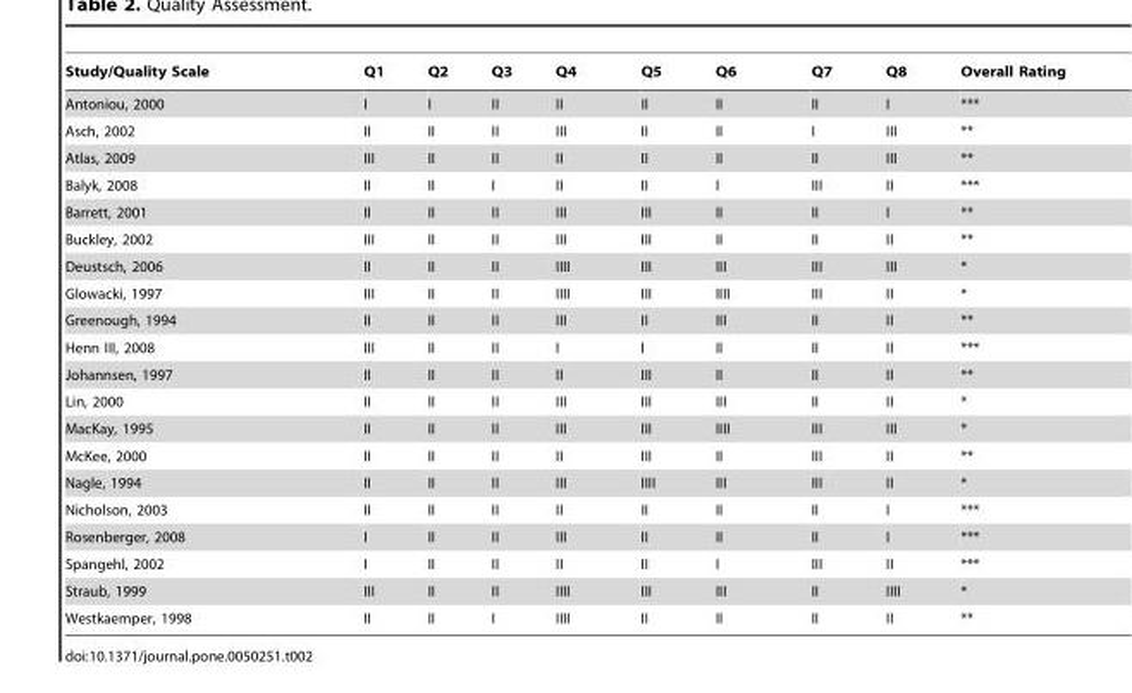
<table><thead><tr><td>Study/Quality Scale</td><td>Q1</td><td>Q2</td><td>Q3</td><td>Q4</td><td>Q5</td><td>Q6</td><td>Q7</td><td>Q8</td><td>Overall Rating</td></tr></thead><tbody><tr><td>Antoniou, 2000</td><td>I</td><td>I</td><td>II</td><td>II</td><td>II</td><td>II</td><td>II</td><td>I</td><td>***</td></tr><tr><td>Asch, 2002</td><td>II</td><td>II</td><td>II</td><td>III</td><td>II</td><td>II</td><td>I</td><td>III</td><td>**</td></tr><tr><td>Atlas, 2009</td><td>III</td><td>II</td><td>II</td><td>II</td><td>II</td><td>II</td><td>II</td><td>III</td><td>**</td></tr><tr><td>Balyk, 2008</td><td>II</td><td>II</td><td>I</td><td>II</td><td>II</td><td>I</td><td>III</td><td>II</td><td>***</td></tr><tr><td>Barrett, 2001</td><td>II</td><td>II</td><td>II</td><td>III</td><td>III</td><td>II</td><td>II</td><td>I</td><td>**</td></tr><tr><td>Buckley, 2002</td><td>III</td><td>II</td><td>II</td><td>III</td><td>III</td><td>II</td><td>II</td><td>II</td><td>**</td></tr><tr><td>Deustsch, 2006</td><td>II</td><td>II</td><td>II</td><td>IIII</td><td>III</td><td>III</td><td>III</td><td>III</td><td>*</td></tr><tr><td>Glowacki, 1997</td><td>III</td><td>II</td><td>II</td><td>IIII</td><td>III</td><td>IIII</td><td>III</td><td>II</td><td>*</td></tr><tr><td>Greenough, 1994</td><td>II</td><td>II</td><td>II</td><td>III</td><td>II</td><td>III</td><td>II</td><td>II</td><td>**</td></tr><tr><td>Henn III, 2008</td><td>III</td><td>II</td><td>II</td><td>I</td><td>I</td><td>II</td><td>II</td><td>II</td><td>***</td></tr><tr><td>Johannsen, 1997</td><td>II</td><td>II</td><td>II</td><td>II</td><td>III</td><td>II</td><td>II</td><td>II</td><td>**</td></tr><tr><td>Lin, 2000</td><td>II</td><td>II</td><td>II</td><td>III</td><td>III</td><td>III</td><td>II</td><td>II</td><td>*</td></tr><tr><td>MacKay, 1995</td><td>II</td><td>II</td><td>II</td><td>III</td><td>III</td><td>IIII</td><td>III</td><td>III</td><td>*</td></tr><tr><td>McKee, 2000</td><td>II</td><td>II</td><td>II</td><td>II</td><td>III</td><td>II</td><td>III</td><td>II</td><td>**</td></tr><tr><td>Nagle, 1994</td><td>II</td><td>II</td><td>II</td><td>III</td><td>IIII</td><td>III</td><td>III</td><td>II</td><td>*</td></tr><tr><td>Nicholson, 2003</td><td>II</td><td>II</td><td>II</td><td>II</td><td>II</td><td>II</td><td>II</td><td>I</td><td>***</td></tr><tr><td>Rosenberger, 2008</td><td>I</td><td>II</td><td>II</td><td>III</td><td>II</td><td>II</td><td>II</td><td>I</td><td>***</td></tr><tr><td>Spangehl, 2002</td><td>I</td><td>II</td><td>II</td><td>II</td><td>II</td><td>I</td><td>III</td><td>II</td><td>***</td></tr><tr><td>Straub, 1999</td><td>III</td><td>II</td><td>II</td><td>IIII</td><td>III</td><td>III</td><td>II</td><td>IIII</td><td>*</td></tr><tr><td>Westkaemper, 1998</td><td>II</td><td>II</td><td>I</td><td>IIII</td><td>II</td><td>II</td><td>II</td><td>II</td><td>**</td></tr></tbody></table>